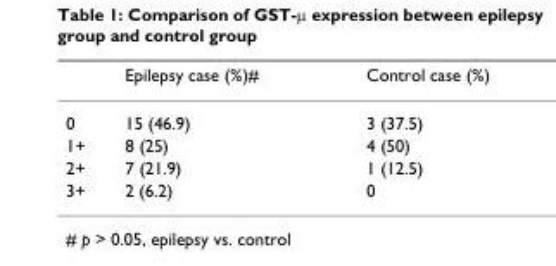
<table><thead><tr><td></td><td>Epilepsy case (%)#</td><td>Control case (%)</td></tr></thead><tbody><tr><td>0</td><td>15 (46.9)</td><td>3 (37.5)</td></tr><tr><td>1+</td><td>8 (25)</td><td>4 (50)</td></tr><tr><td>2+</td><td>7 (21.9)</td><td>1 (12.5)</td></tr><tr><td>3+</td><td>2 (6.2)</td><td>0</td></tr></tbody></table>